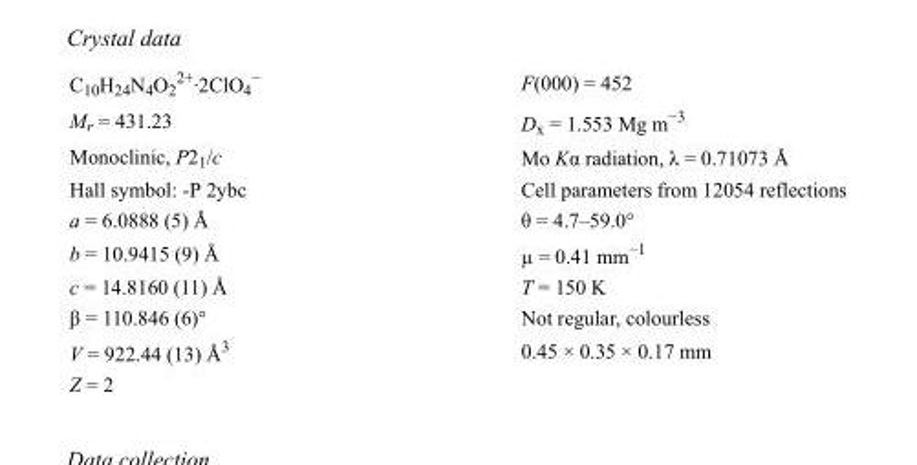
<table><tbody><tr><td>C<sub>10</sub>H<sub>24</sub>N<sub>4</sub>O<sub>2</sub> <sup>2+</sup>·2ClO<sub>4</sub> <sup>−</sup></td><td>F(000) = 452</td></tr><tr><td>M<sub>r</sub> = 431.23</td><td>D<sub>x</sub> = 1.553 Mg m<sup>−3</sup></td></tr><tr><td>Monoclinic, P2<sub>1</sub>/c</td><td>Mo Kα radiation, λ = 0.71073 Å</td></tr><tr><td>Hall symbol: -P 2ybc</td><td>Cell parameters from 12054 reflections</td></tr><tr><td>a = 6.0888 (5) Å</td><td>θ = 4.7–59.0°</td></tr><tr><td>b = 10.9415 (9) Å</td><td>µ = 0.41 mm<sup>−1</sup></td></tr><tr><td>c = 14.8160 (11) Å</td><td>T = 150 K</td></tr><tr><td>β = 110.846 (6)°</td><td>Not regular, colourless</td></tr><tr><td>V = 922.44 (13) Å<sup>3</sup></td><td>0.45 × 0.35 × 0.17 mm</td></tr><tr><td>Z = 2</td><td></td></tr></tbody></table>